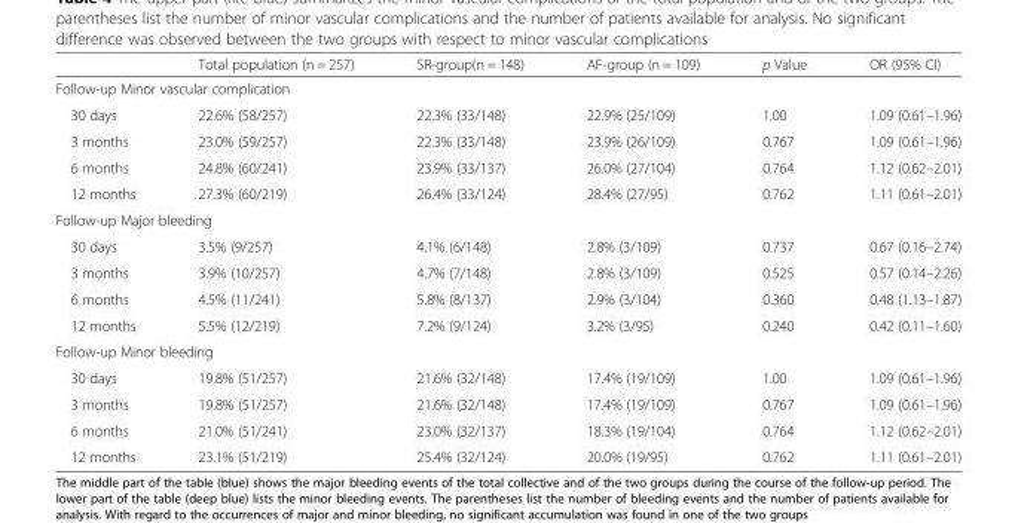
<table><thead><tr><td></td><td>Total population (n = 257)</td><td>SR-group(n = 148)</td><td>AF-group (n = 109)</td><td>p Value</td><td>OR (95% CI)</td></tr></thead><tbody><tr><td colspan="6">Follow-up Minor vascular complication</td></tr><tr><td>30 days</td><td>22.6% (58/257)</td><td>22.3% (33/148)</td><td>22.9% (25/109)</td><td>1.00</td><td>1.09 (0.61–1.96)</td></tr><tr><td>3 months</td><td>23.0% (59/257)</td><td>22.3% (33/148)</td><td>23.9% (26/109)</td><td>0.767</td><td>1.09 (0.61–1.96)</td></tr><tr><td>6 months</td><td>24.8% (60/241)</td><td>23.9% (33/137)</td><td>26.0% (27/104)</td><td>0.764</td><td>1.12 (0.62–2.01)</td></tr><tr><td>12 months</td><td>27.3% (60/219)</td><td>26.4% (33/124)</td><td>28.4% (27/95)</td><td>0.762</td><td>1.11 (0.61–2.01)</td></tr><tr><td colspan="6">Follow-up Major bleeding</td></tr><tr><td>30 days</td><td>3.5% (9/257)</td><td>4.1% (6/148)</td><td>2.8% (3/109)</td><td>0.737</td><td>0.67 (0.16–2.74)</td></tr><tr><td>3 months</td><td>3.9% (10/257)</td><td>4.7% (7/148)</td><td>2.8% (3/109)</td><td>0.525</td><td>0.57 (0.14–2.26)</td></tr><tr><td>6 months</td><td>4.5% (11/241)</td><td>5.8% (8/137)</td><td>2.9% (3/104)</td><td>0.360</td><td>0.48 (1.13–1.87)</td></tr><tr><td>12 months</td><td>5.5% (12/219)</td><td>7.2% (9/124)</td><td>3.2% (3/95)</td><td>0.240</td><td>0.42 (0.11–1.60)</td></tr><tr><td colspan="6">Follow-up Minor bleeding</td></tr><tr><td>30 days</td><td>19.8% (51/257)</td><td>21.6% (32/148)</td><td>17.4% (19/109)</td><td>1.00</td><td>1.09 (0.61–1.96)</td></tr><tr><td>3 months</td><td>19.8% (51/257)</td><td>21.6% (32/148)</td><td>17.4% (19/109)</td><td>0.767</td><td>1.09 (0.61–1.96)</td></tr><tr><td>6 months</td><td>21.0% (51/241)</td><td>23.0% (32/137)</td><td>18.3% (19/104)</td><td>0.764</td><td>1.12 (0.62–2.01)</td></tr><tr><td>12 months</td><td>23.1% (51/219)</td><td>25.4% (32/124)</td><td>20.0% (19/95)</td><td>0.762</td><td>1.11 (0.61–2.01)</td></tr></tbody></table>